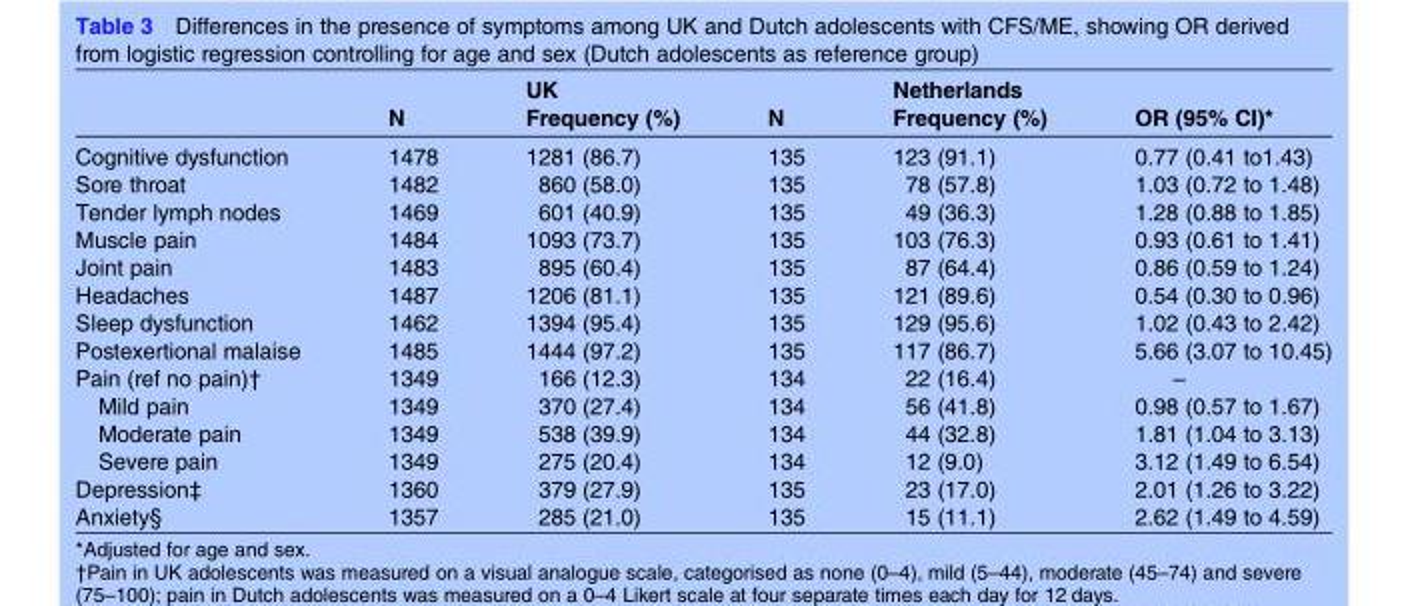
<table><thead><tr><td rowspan="2"></td><td rowspan="2">N</td><td rowspan="2">UK Frequency (%)</td><td rowspan="2">N</td><td rowspan="2">Netherlands Frequency (%)</td><td rowspan="2">OR (95% CI)*</td></tr><tr></tr></thead><tbody><tr><td>Cognitive dysfunction</td><td>1478</td><td>1281 (86.7)</td><td>135</td><td>123 (91.1)</td><td>0.77 (0.41 to1.43)</td></tr><tr><td>Sore throat</td><td>1482</td><td>860 (58.0)</td><td>135</td><td>78 (57.8)</td><td>1.03 (0.72 to 1.48)</td></tr><tr><td>Tender lymph nodes</td><td>1469</td><td>601 (40.9)</td><td>135</td><td>49 (36.3)</td><td>1.28 (0.88 to 1.85)</td></tr><tr><td>Muscle pain</td><td>1484</td><td>1093 (73.7)</td><td>135</td><td>103 (76.3)</td><td>0.93 (0.61 to 1.41)</td></tr><tr><td>Joint pain</td><td>1483</td><td>895 (60.4)</td><td>135</td><td>87 (64.4)</td><td>0.86 (0.59 to 1.24)</td></tr><tr><td>Headaches</td><td>1487</td><td>1206 (81.1)</td><td>135</td><td>121 (89.6)</td><td>0.54 (0.30 to 0.96)</td></tr><tr><td>Sleep dysfunction</td><td>1462</td><td>1394 (95.4)</td><td>135</td><td>129 (95.6)</td><td>1.02 (0.43 to 2.42)</td></tr><tr><td>Postexertional malaise</td><td>1485</td><td>1444 (97.2)</td><td>135</td><td>117 (86.7)</td><td>5.66 (3.07 to 10.45)</td></tr><tr><td>Pain (ref no pain)†</td><td>1349</td><td>166 (12.3)</td><td>134</td><td>22 (16.4)</td><td>–</td></tr><tr><td>Mild pain</td><td>1349</td><td>370 (27.4)</td><td>134</td><td>56 (41.8)</td><td>0.98 (0.57 to 1.67)</td></tr><tr><td>Moderate pain</td><td>1349</td><td>538 (39.9)</td><td>134</td><td>44 (32.8)</td><td>1.81 (1.04 to 3.13)</td></tr><tr><td>Severe pain</td><td>1349</td><td>275 (20.4)</td><td>134</td><td>12 (9.0)</td><td>3.12 (1.49 to 6.54)</td></tr><tr><td>Depression‡</td><td>1360</td><td>379 (27.9)</td><td>135</td><td>23 (17.0)</td><td>2.01 (1.26 to 3.22)</td></tr><tr><td>Anxiety§</td><td>1357</td><td>285 (21.0)</td><td>135</td><td>15 (11.1)</td><td>2.62 (1.49 to 4.59)</td></tr></tbody></table>